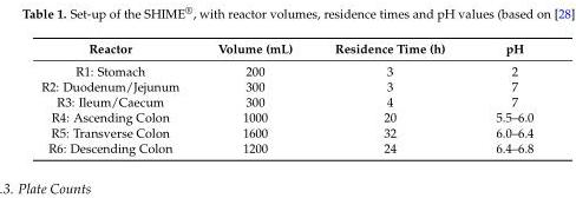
<table><thead><tr><td>Reactor</td><td>Volume (mL)</td><td>Residence Time (h)</td><td>pH</td></tr></thead><tbody><tr><td>R1: Stomach</td><td>200</td><td>3</td><td>2</td></tr><tr><td>R2: Duodenum/Jejunum</td><td>300</td><td>3</td><td>7</td></tr><tr><td>R3: Ileum/Caecum</td><td>300</td><td>4</td><td>7</td></tr><tr><td>R4: Ascending Colon</td><td>1000</td><td>20</td><td>5.5–6.0</td></tr><tr><td>R5: Transverse Colon</td><td>1600</td><td>32</td><td>6.0–6.4</td></tr><tr><td>R6: Descending Colon</td><td>1200</td><td>24</td><td>6.4–6.8</td></tr></tbody></table>